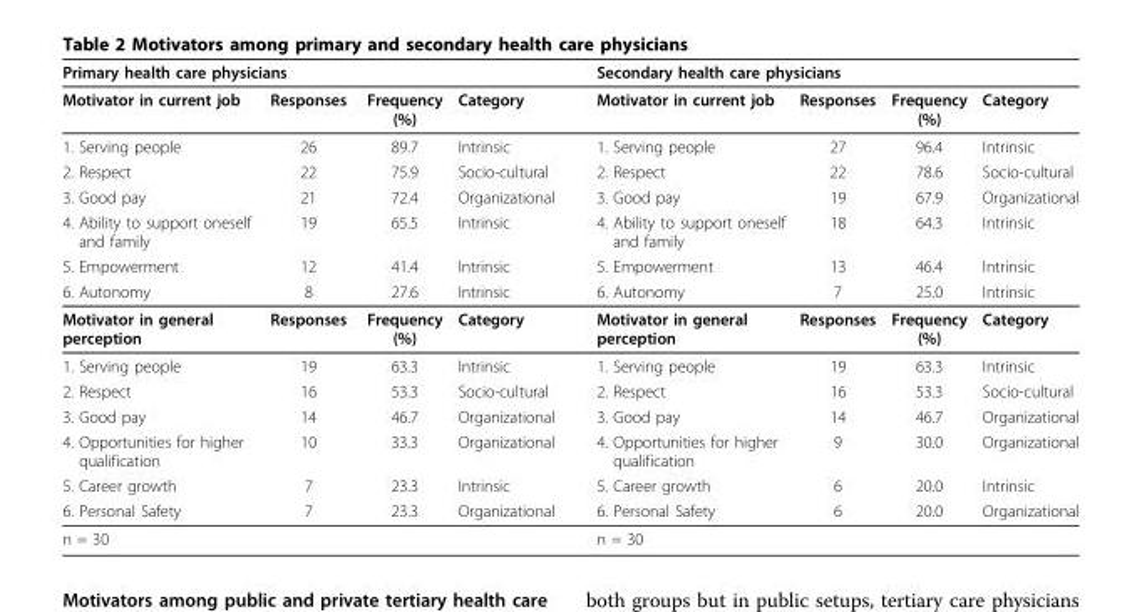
<table><thead><tr><td colspan="4">Primary health care physicians</td><td colspan="4">Secondary health care physicians</td></tr><tr><td>Motivator in current job</td><td>Responses</td><td>Frequency (%)</td><td>Category</td><td>Motivator in current job</td><td>Responses</td><td>Frequency (%)</td><td>Category</td></tr></thead><tbody><tr><td>1. Serving people</td><td>26</td><td>89.7</td><td>Intrinsic</td><td>1. Serving people</td><td>27</td><td>96.4</td><td>Intrinsic</td></tr><tr><td>2. Respect</td><td>22</td><td>75.9</td><td>Socio-cultural</td><td>2. Respect</td><td>22</td><td>78.6</td><td>Socio-cultural</td></tr><tr><td>3. Good pay</td><td>21</td><td>72.4</td><td>Organizational</td><td>3. Good pay</td><td>19</td><td>67.9</td><td>Organizational</td></tr><tr><td>4. Ability to support oneself and family</td><td>19</td><td>65.5</td><td>Intrinsic</td><td>4. Ability to support oneself and family</td><td>18</td><td>64.3</td><td>Intrinsic</td></tr><tr><td>5. Empowerment</td><td>12</td><td>41.4</td><td>Intrinsic</td><td>5. Empowerment</td><td>13</td><td>46.4</td><td>Intrinsic</td></tr><tr><td>6. Autonomy</td><td>8</td><td>27.6</td><td>Intrinsic</td><td>6. Autonomy</td><td>7</td><td>25.0</td><td>Intrinsic</td></tr><tr><td>Motivator in general perception</td><td>Responses</td><td>Frequency (%)</td><td>Category</td><td>Motivator in general perception</td><td>Responses</td><td>Frequency (%)</td><td>Category</td></tr><tr><td>1. Serving people</td><td>19</td><td>63.3</td><td>Intrinsic</td><td>1. Serving people</td><td>19</td><td>63.3</td><td>Intrinsic</td></tr><tr><td>2. Respect</td><td>16</td><td>53.3</td><td>Socio-cultural</td><td>2. Respect</td><td>16</td><td>53.3</td><td>Socio-cultural</td></tr><tr><td>3. Good pay</td><td>14</td><td>46.7</td><td>Organizational</td><td>3. Good pay</td><td>14</td><td>46.7</td><td>Organizational</td></tr><tr><td>4. Opportunities for higher qualification</td><td>10</td><td>33.3</td><td>Organizational</td><td>4. Opportunities for higher qualification</td><td>9</td><td>30.0</td><td>Organizational</td></tr><tr><td>5. Career growth</td><td>7</td><td>23.3</td><td>Intrinsic</td><td>5. Career growth</td><td>6</td><td>20.0</td><td>Intrinsic</td></tr><tr><td>6. Personal Safety</td><td>7</td><td>23.3</td><td>Organizational</td><td>6. Personal Safety</td><td>6</td><td>20.0</td><td>Organizational</td></tr><tr><td>n = 30</td><td></td><td></td><td></td><td>n = 30</td><td></td><td></td><td></td></tr></tbody></table>